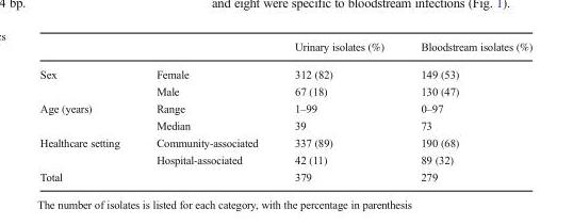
<table><thead><tr><td></td><td></td><td>Urinary isolates (%)</td><td>Bloodstream isolates (%)</td></tr></thead><tbody><tr><td rowspan="2">Sex</td><td>Female</td><td>312 (82)</td><td>149 (53)</td></tr><tr><td>Male</td><td>67 (18)</td><td>130 (47)</td></tr><tr><td rowspan="2">Age (years)</td><td>Range</td><td>1–99</td><td>0–97</td></tr><tr><td>Median</td><td>39</td><td>73</td></tr><tr><td rowspan="2">Healthcare setting</td><td>Community-associated</td><td>337 (89)</td><td>190 (68)</td></tr><tr><td>Hospital-associated</td><td>42 (11)</td><td>89 (32)</td></tr><tr><td>Total</td><td></td><td>379</td><td>279</td></tr></tbody></table>